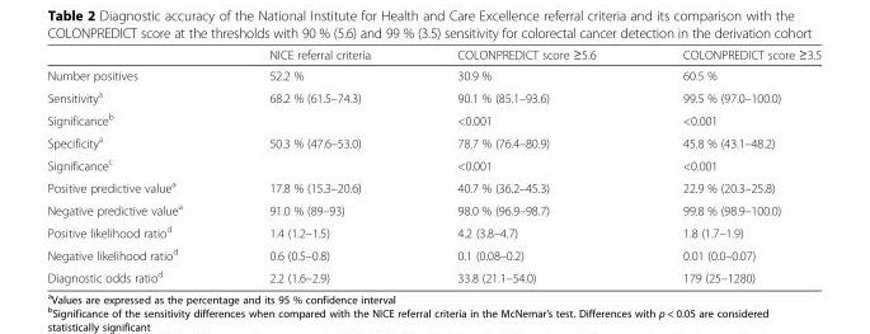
<table><thead><tr><td></td><td>NICE referral criteria</td><td>COLONPREDICT score ≥5.6</td><td>COLONPREDICT score ≥3.5</td></tr></thead><tbody><tr><td>Number positives</td><td>52.2 %</td><td>30.9 %</td><td>60.5 %</td></tr><tr><td>Sensitivity<sup>a</sup></td><td>68.2 % (61.5–74.3)</td><td>90.1 % (85.1–93.6)</td><td>99.5 % (97.0–100.0)</td></tr><tr><td>Significance<sup>b</sup></td><td></td><td>&lt;0.001</td><td>&lt;0.001</td></tr><tr><td>Specificity<sup>a</sup></td><td>50.3 % (47.6–53.0)</td><td>78.7 % (76.4–80.9)</td><td>45.8 % (43.1–48.2)</td></tr><tr><td>Significance<sup>c</sup></td><td></td><td>&lt;0.001</td><td>&lt;0.001</td></tr><tr><td>Positive predictive value<sup>a</sup></td><td>17.8 % (15.3–20.6)</td><td>40.7 % (36.2–45.3)</td><td>22.9 % (20.3–25.8)</td></tr><tr><td>Negative predictive value<sup>a</sup></td><td>91.0 % (89–93)</td><td>98.0 % (96.9–98.7)</td><td>99.8 % (98.9–100.0)</td></tr><tr><td>Positive likelihood ratio<sup>d</sup></td><td>1.4 (1.2–1.5)</td><td>4.2 (3.8–4.7)</td><td>1.8 (1.7–1.9)</td></tr><tr><td>Negative likelihood ratio<sup>d</sup></td><td>0.6 (0.5–0.8)</td><td>0.1 (0.08–0.2)</td><td>0.01 (0.0–0.07)</td></tr><tr><td>Diagnostic odds ratio<sup>d</sup></td><td>2.2 (1.6–2.9)</td><td>33.8 (21.1–54.0)</td><td>179 (25–1280)</td></tr></tbody></table>